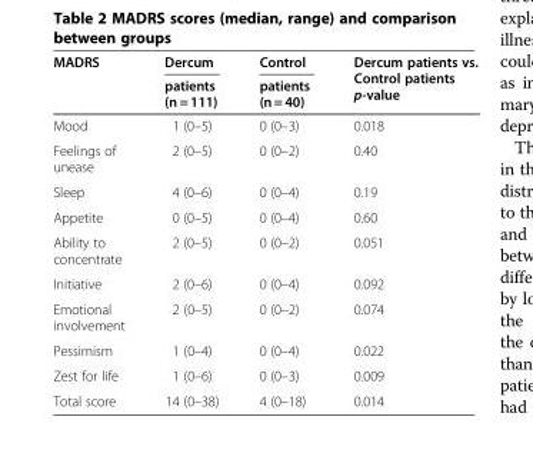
<table><thead><tr><td rowspan="2">MADRS</td><td rowspan="2">Dercum patients (n = 111)</td><td rowspan="2">Control patients (n = 40)</td><td rowspan="2">Dercum patients vs. Control patients p-value</td></tr><tr></tr></thead><tbody><tr><td>Mood</td><td>1 (0–5)</td><td>0 (0–3)</td><td>0.018</td></tr><tr><td>Feelings of unease</td><td>2 (0–5)</td><td>0 (0–2)</td><td>0.40</td></tr><tr><td>Sleep</td><td>4 (0–6)</td><td>0 (0–4)</td><td>0.19</td></tr><tr><td>Appetite</td><td>0 (0–5)</td><td>0 (0–4)</td><td>0.60</td></tr><tr><td>Ability to concentrate</td><td>2 (0–5)</td><td>0 (0–2)</td><td>0.051</td></tr><tr><td>Initiative</td><td>2 (0–6)</td><td>0 (0–4)</td><td>0.092</td></tr><tr><td>Emotional involvement</td><td>2 (0–5)</td><td>0 (0–2)</td><td>0.074</td></tr><tr><td>Pessimism</td><td>1 (0–4)</td><td>0 (0–4)</td><td>0.022</td></tr><tr><td>Zest for life</td><td>1 (0–6)</td><td>0 (0–3)</td><td>0.009</td></tr><tr><td>Total score</td><td>14 (0–38)</td><td>4 (0–18)</td><td>0.014</td></tr></tbody></table>